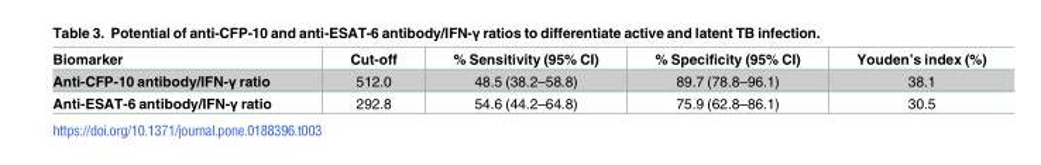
<table><thead><tr><td>Biomarker</td><td>Cut-off</td><td>% Sensitivity (95% CI)</td><td>% Specificity (95% CI)</td><td>Youden’s index (%)</td></tr></thead><tbody><tr><td>Anti-CFP-10 antibody/IFN-γ ratio</td><td>512.0</td><td>48.5 (38.2–58.8)</td><td>89.7 (78.8–96.1)</td><td>38.1</td></tr><tr><td>Anti-ESAT-6 antibody/IFN-γ ratio</td><td>292.8</td><td>54.6 (44.2–64.8)</td><td>75.9 (62.8–86.1)</td><td>30.5</td></tr></tbody></table>